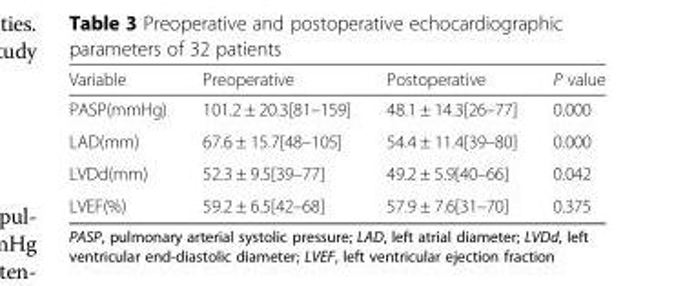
<table><thead><tr><td>Variable</td><td>Preoperative</td><td>Postoperative</td><td>P value</td></tr></thead><tbody><tr><td>PASP(mmHg)</td><td>101.2 ± 20.3[81–159]</td><td>48.1 ± 14.3[26–77]</td><td>0.000</td></tr><tr><td>LAD(mm)</td><td>67.6 ± 15.7[48–105]</td><td>54.4 ± 11.4[39–80]</td><td>0.000</td></tr><tr><td>LVDd(mm)</td><td>52.3 ± 9.5[39–77]</td><td>49.2 ± 5.9[40–66]</td><td>0.042</td></tr><tr><td>LVEF(%)</td><td>59.2 ± 6.5[42–68]</td><td>57.9 ± 7.6[31–70]</td><td>0.375</td></tr></tbody></table>